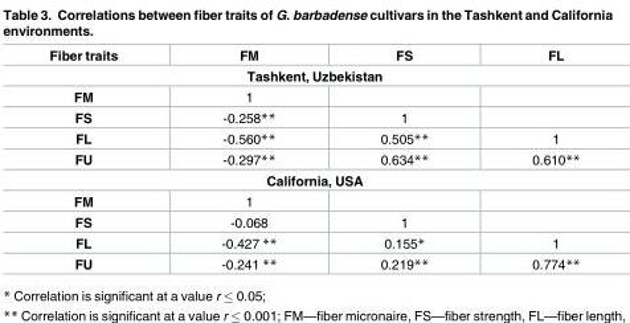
<table><tbody><tr><td>Fiber traits</td><td>FM</td><td>FS</td><td>FL</td></tr><tr><td colspan="4">Tashkent, Uzbekistan</td></tr><tr><td>FM</td><td>1</td><td></td><td></td></tr><tr><td>FS</td><td>-0.258**</td><td>1</td><td></td></tr><tr><td>FL</td><td>-0.560**</td><td>0.505**</td><td>1</td></tr><tr><td>FU</td><td>-0.297**</td><td>0.634**</td><td>0.610**</td></tr><tr><td colspan="4">California, USA</td></tr><tr><td>FM</td><td>1</td><td></td><td></td></tr><tr><td>FS</td><td>-0.068</td><td>1</td><td></td></tr><tr><td>FL</td><td>-0.427 **</td><td>0.155*</td><td>1</td></tr><tr><td>FU</td><td>-0.241 **</td><td>0.219**</td><td>0.774**</td></tr></tbody></table>